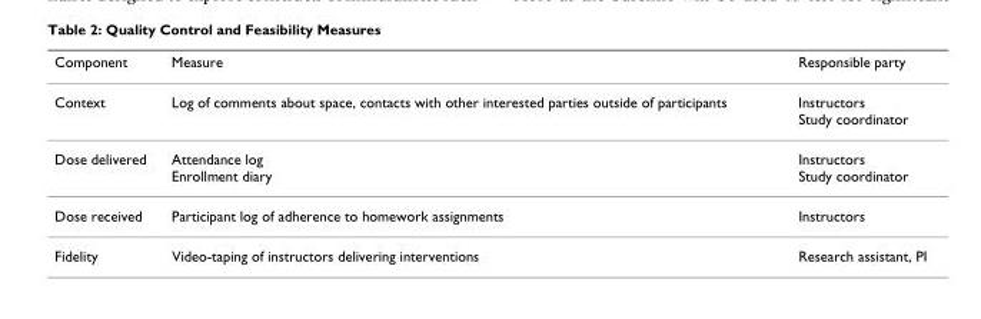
<table><thead><tr><td>Component</td><td>Measure</td><td>Responsible party</td></tr></thead><tbody><tr><td>Context</td><td>Log of comments about space, contacts with other interested parties outside of participants</td><td>Instructors Study coordinator</td></tr><tr><td>Dose delivered</td><td>Attendance log Enrollment diary</td><td>Instructors Study coordinator</td></tr><tr><td>Dose received</td><td>Participant log of adherence to homework assignments</td><td>Instructors</td></tr><tr><td>Fidelity</td><td>Video-taping of instructors delivering interventions</td><td>Research assistant, PI</td></tr></tbody></table>